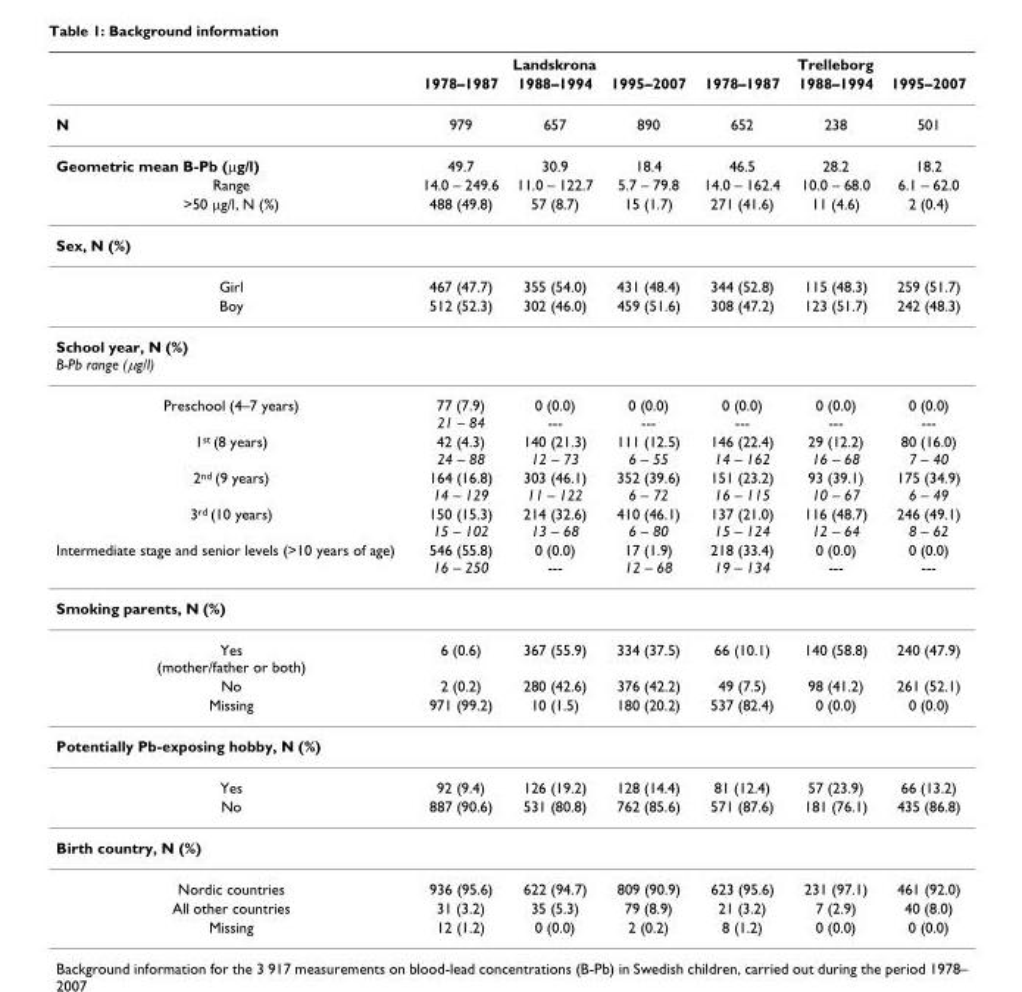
<table><thead><tr><td rowspan="2"></td><td colspan="3">Landskrona</td><td colspan="3">Trelleborg</td></tr><tr><td>1978–1987</td><td>1988–1994</td><td>1995–2007</td><td>1978–1987</td><td>1988–1994</td><td>1995–2007</td></tr></thead><tbody><tr><td>N</td><td>979</td><td>657</td><td>890</td><td>652</td><td>238</td><td>501</td></tr><tr><td>Geometric mean B-Pb (μg/l)</td><td>49.7</td><td>30.9</td><td>18.4</td><td>46.5</td><td>28.2</td><td>18.2</td></tr><tr><td>Range</td><td>14.0 – 249.6</td><td>11.0 – 122.7</td><td>5.7 – 79.8</td><td>14.0 – 162.4</td><td>10.0 – 68.0</td><td>6.1 – 62.0</td></tr><tr><td>&gt;50 μg/l, N (%)</td><td>488 (49.8)</td><td>57 (8.7)</td><td>15 (1.7)</td><td>271 (41.6)</td><td>11 (4.6)</td><td>2 (0.4)</td></tr><tr><td colspan="7">Sex, N (%)</td></tr><tr><td>Girl</td><td>467 (47.7)</td><td>355 (54.0)</td><td>431 (48.4)</td><td>344 (52.8)</td><td>115 (48.3)</td><td>259 (51.7)</td></tr><tr><td>Boy</td><td>512 (52.3)</td><td>302 (46.0)</td><td>459 (51.6)</td><td>308 (47.2)</td><td>123 (51.7)</td><td>242 (48.3)</td></tr><tr><td colspan="7">School year, N (%) B-Pb range (μg/l)</td></tr><tr><td>Preschool (4–7 years)</td><td>77 (7.9) 21 – 84</td><td>0 (0.0) ---</td><td>0 (0.0) ---</td><td>0 (0.0) ---</td><td>0 (0.0) ---</td><td>0 (0.0) ---</td></tr><tr><td>1<sup>st</sup> (8 years)</td><td>42 (4.3) 24 – 88</td><td>140 (21.3) 12 – 73</td><td>111 (12.5) 6 – 55</td><td>146 (22.4) 14 – 162</td><td>29 (12.2) 16 – 68</td><td>80 (16.0) 7 – 40</td></tr><tr><td>2<sup>nd</sup> (9 years)</td><td>164 (16.8) 14 – 129</td><td>303 (46.1) 11 – 122</td><td>352 (39.6) 6 – 72</td><td>151 (23.2) 16 – 115</td><td>93 (39.1) 10 – 67</td><td>175 (34.9) 6 – 49</td></tr><tr><td>3<sup>rd</sup> (10 years)</td><td>150 (15.3) 15 – 102</td><td>214 (32.6) 13 – 68</td><td>410 (46.1) 6 – 80</td><td>137 (21.0) 15 – 124</td><td>116 (48.7) 12 – 64</td><td>246 (49.1) 8 – 62</td></tr><tr><td>Intermediate stage and senior levels (&gt;10 years of age)</td><td>546 (55.8) 16 – 250</td><td>0 (0.0) ---</td><td>17 (1.9) 12 – 68</td><td>218 (33.4) 19 – 134</td><td>0 (0.0) ---</td><td>0 (0.0) ---</td></tr><tr><td colspan="7">Smoking parents, N (%)</td></tr><tr><td>Yes (mother/father or both)</td><td>6 (0.6)</td><td>367 (55.9)</td><td>334 (37.5)</td><td>66 (10.1)</td><td>140 (58.8)</td><td>240 (47.9)</td></tr><tr><td>No</td><td>2 (0.2)</td><td>280 (42.6)</td><td>376 (42.2)</td><td>49 (7.5)</td><td>98 (41.2)</td><td>261 (52.1)</td></tr><tr><td>Missing</td><td>971 (99.2)</td><td>10 (1.5)</td><td>180 (20.2)</td><td>537 (82.4)</td><td>0 (0.0)</td><td>0 (0.0)</td></tr><tr><td colspan="7">Potentially Pb-exposing hobby, N (%)</td></tr><tr><td>Yes</td><td>92 (9.4)</td><td>126 (19.2)</td><td>128 (14.4)</td><td>81 (12.4)</td><td>57 (23.9)</td><td>66 (13.2)</td></tr><tr><td>No</td><td>887 (90.6)</td><td>531 (80.8)</td><td>762 (85.6)</td><td>571 (87.6)</td><td>181 (76.1)</td><td>435 (86.8)</td></tr><tr><td colspan="7">Birth country, N (%)</td></tr><tr><td>Nordic countries</td><td>936 (95.6)</td><td>622 (94.7)</td><td>809 (90.9)</td><td>623 (95.6)</td><td>231 (97.1)</td><td>461 (92.0)</td></tr><tr><td>All other countries</td><td>31 (3.2)</td><td>35 (5.3)</td><td>79 (8.9)</td><td>21 (3.2)</td><td>7 (2.9)</td><td>40 (8.0)</td></tr><tr><td>Missing</td><td>12 (1.2)</td><td>0 (0.0)</td><td>2 (0.2)</td><td>8 (1.2)</td><td>0 (0.0)</td><td>0 (0.0)</td></tr></tbody></table>